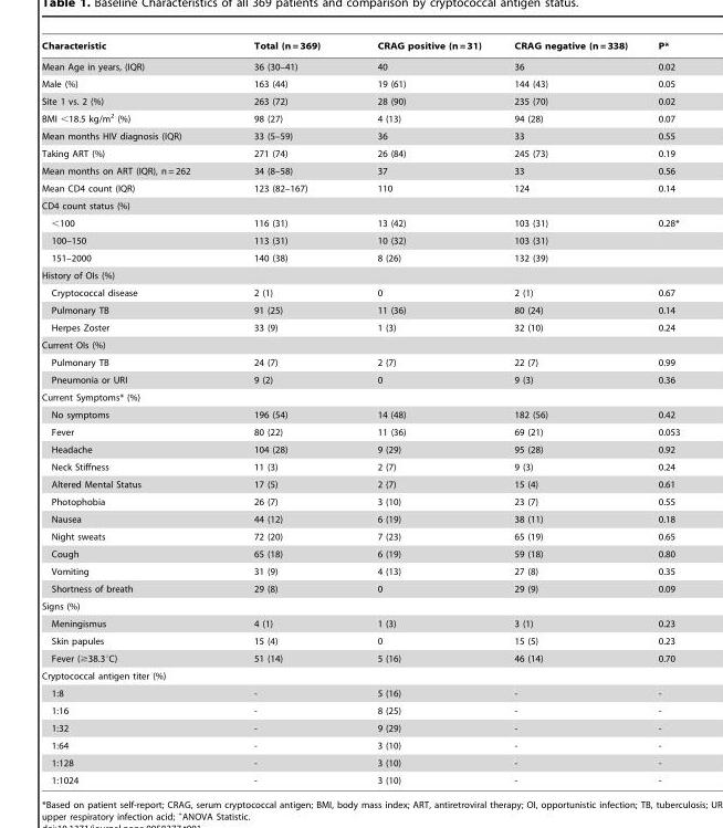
<table><thead><tr><td>Characteristic</td><td>Total (n = 369)</td><td>CRAG positive (n = 31)</td><td>CRAG negative (n = 338)</td><td>P*</td></tr></thead><tbody><tr><td>Mean Age in years, (IQR)</td><td>36 (30–41)</td><td>40</td><td>36</td><td>0.02</td></tr><tr><td>Male (%)</td><td>163 (44)</td><td>19 (61)</td><td>144 (43)</td><td>0.05</td></tr><tr><td>Site 1 vs. 2 (%)</td><td>263 (72)</td><td>28 (90)</td><td>235 (70)</td><td>0.02</td></tr><tr><td>BMI &lt;18.5 kg/m<sup>2</sup> (%)</td><td>98 (27)</td><td>4 (13)</td><td>94 (28)</td><td>0.07</td></tr><tr><td>Mean months HIV diagnosis (IQR)</td><td>33 (5–59)</td><td>36</td><td>33</td><td>0.55</td></tr><tr><td>Taking ART (%)</td><td>271 (74)</td><td>26 (84)</td><td>245 (73)</td><td>0.19</td></tr><tr><td>Mean months on ART (IQR), n = 262</td><td>34 (8–58)</td><td>37</td><td>33</td><td>0.56</td></tr><tr><td>Mean CD4 count (IQR)</td><td>123 (82–167)</td><td>110</td><td>124</td><td>0.14</td></tr><tr><td colspan="5">CD4 count status (%)</td></tr><tr><td>&lt;100</td><td>116 (31)</td><td>13 (42)</td><td>103 (31)</td><td>0.28*</td></tr><tr><td>100–150</td><td>113 (31)</td><td>10 (32)</td><td>103 (31)</td><td></td></tr><tr><td>151–2000</td><td>140 (38)</td><td>8 (26)</td><td>132 (39)</td><td></td></tr><tr><td colspan="5">History of OIs (%)</td></tr><tr><td>Cryptococcal disease</td><td>2 (1)</td><td>0</td><td>2 (1)</td><td>0.67</td></tr><tr><td>Pulmonary TB</td><td>91 (25)</td><td>11 (36)</td><td>80 (24)</td><td>0.14</td></tr><tr><td>Herpes Zoster</td><td>33 (9)</td><td>1 (3)</td><td>32 (10)</td><td>0.24</td></tr><tr><td colspan="5">Current OIs (%)</td></tr><tr><td>Pulmonary TB</td><td>24 (7)</td><td>2 (7)</td><td>22 (7)</td><td>0.99</td></tr><tr><td>Pneumonia or URI</td><td>9 (2)</td><td>0</td><td>9 (3)</td><td>0.36</td></tr><tr><td colspan="5">Current Symptoms* (%)</td></tr><tr><td>No symptoms</td><td>196 (54)</td><td>14 (48)</td><td>182 (56)</td><td>0.42</td></tr><tr><td>Fever</td><td>80 (22)</td><td>11 (36)</td><td>69 (21)</td><td>0.053</td></tr><tr><td>Headache</td><td>104 (28)</td><td>9 (29)</td><td>95 (28)</td><td>0.92</td></tr><tr><td>Neck Stiffness</td><td>11 (3)</td><td>2 (7)</td><td>9 (3)</td><td>0.24</td></tr><tr><td>Altered Mental Status</td><td>17 (5)</td><td>2 (7)</td><td>15 (4)</td><td>0.61</td></tr><tr><td>Photophobia</td><td>26 (7)</td><td>3 (10)</td><td>23 (7)</td><td>0.55</td></tr><tr><td>Nausea</td><td>44 (12)</td><td>6 (19)</td><td>38 (11)</td><td>0.18</td></tr><tr><td>Night sweats</td><td>72 (20)</td><td>7 (23)</td><td>65 (19)</td><td>0.65</td></tr><tr><td>Cough</td><td>65 (18)</td><td>6 (19)</td><td>59 (18)</td><td>0.80</td></tr><tr><td>Vomiting</td><td>31 (9)</td><td>4 (13)</td><td>27 (8)</td><td>0.35</td></tr><tr><td>Shortness of breath</td><td>29 (8)</td><td>0</td><td>29 (9)</td><td>0.09</td></tr><tr><td colspan="5">Signs (%)</td></tr><tr><td>Meningismus</td><td>4 (1)</td><td>1 (3)</td><td>3 (1)</td><td>0.23</td></tr><tr><td>Skin papules</td><td>15 (4)</td><td>0</td><td>15 (5)</td><td>0.23</td></tr><tr><td>Fever (≥38.3°C)</td><td>51 (14)</td><td>5 (16)</td><td>46 (14)</td><td>0.70</td></tr><tr><td colspan="5">Cryptococcal antigen titer (%)</td></tr><tr><td>1:8</td><td>-</td><td>5 (16)</td><td>-</td><td>-</td></tr><tr><td>1:16</td><td>-</td><td>8 (25)</td><td>-</td><td>-</td></tr><tr><td>1:32</td><td>-</td><td>9 (29)</td><td>-</td><td>-</td></tr><tr><td>1:64</td><td>-</td><td>3 (10)</td><td>-</td><td>-</td></tr><tr><td>1:128</td><td>-</td><td>3 (10)</td><td>-</td><td>-</td></tr><tr><td>1:1024</td><td>-</td><td>3 (10)</td><td>-</td><td>-</td></tr></tbody></table>